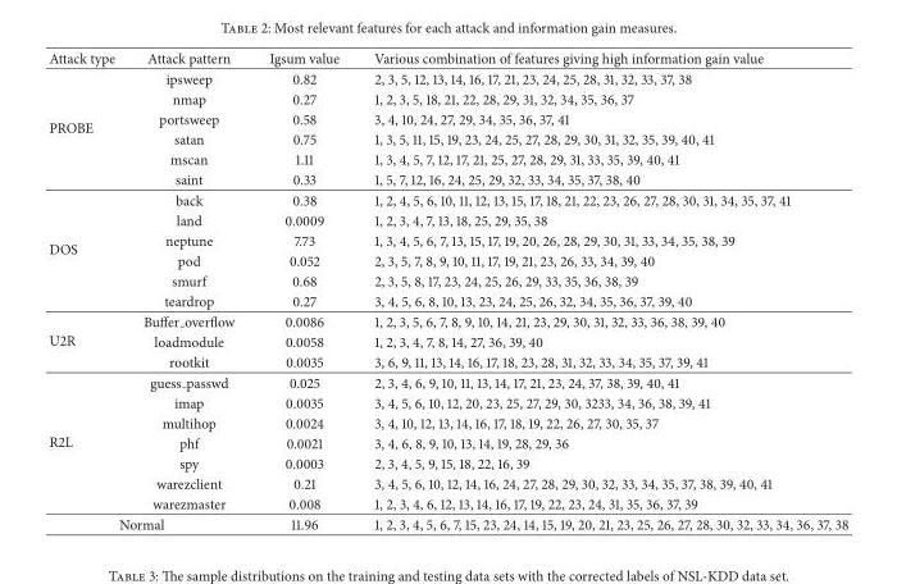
<table><thead><tr><td>Attack type</td><td>Attack pattern</td><td>Igsum value</td><td>Various combination of features giving high information gain value</td></tr></thead><tbody><tr><td rowspan="6">PROBE</td><td>ipsweep</td><td>0.82</td><td>2, 3, 5, 12, 13, 14, 16, 17, 21, 23, 24, 25, 28, 31, 32, 33, 37, 38</td></tr><tr><td>nmap</td><td>0.27</td><td>1, 2, 3, 5, 18, 21, 22, 28, 29, 31, 32, 34, 35, 36, 37</td></tr><tr><td>portsweep</td><td>0.58</td><td>3, 4, 10, 24, 27, 29, 34, 35, 36, 37, 41</td></tr><tr><td>satan</td><td>0.75</td><td>1, 3, 5, 11, 15, 19, 23, 24, 25, 27, 28, 29, 30, 31, 32, 35, 39, 40, 41</td></tr><tr><td>mscan</td><td>1.11</td><td>1, 3, 4, 5, 7, 12, 17, 21, 25, 27, 28, 29, 31, 33, 35, 39, 40, 41</td></tr><tr><td>saint</td><td>0.33</td><td>1, 5, 7, 12, 16, 24, 25, 29, 32, 33, 34, 35, 37, 38, 40</td></tr><tr><td rowspan="6">DOS</td><td>back</td><td>0.38</td><td>1, 2, 4, 5, 6, 10, 11, 12, 13, 15, 17, 18, 21, 22, 23, 26, 27, 28, 30, 31, 34, 35, 37, 41</td></tr><tr><td>land</td><td>0.0009</td><td>1, 2, 3, 4, 7, 13, 18, 25, 29, 35, 38</td></tr><tr><td>neptune</td><td>7.73</td><td>1, 3, 4, 5, 6, 7, 13, 15, 17, 19, 20, 26, 28, 29, 30, 31, 33, 34, 35, 38, 39</td></tr><tr><td>pod</td><td>0.052</td><td>2, 3, 5, 7, 8, 9, 10, 11, 17, 19, 21, 23, 26, 33, 34, 39, 40</td></tr><tr><td>smurf</td><td>0.68</td><td>2, 3, 5, 8, 17, 23, 24, 25, 26, 29, 33, 35, 36, 38, 39</td></tr><tr><td>teardrop</td><td>0.27</td><td>3, 4, 5, 6, 8, 10, 13, 23, 24, 25, 26, 32, 34, 35, 36, 37, 39, 40</td></tr><tr><td rowspan="3">U2R</td><td>Buffer overflow</td><td>0.0086</td><td>1, 2, 3, 5, 6, 7, 8, 9, 10, 14, 21, 23, 29, 30, 31, 32, 33, 36, 38, 39, 40</td></tr><tr><td>loadmodule</td><td>0.0058</td><td>1, 2, 3, 4, 7, 8, 14, 27, 36, 39, 40</td></tr><tr><td>rootkit</td><td>0.0035</td><td>3, 6, 9, 11, 13, 14, 16, 17, 18, 23, 28, 31, 32, 33, 34, 35, 37, 39, 41</td></tr><tr><td rowspan="7">R2L</td><td>guess passwd</td><td>0.025</td><td>2, 3, 4, 6, 9, 10, 11, 13, 14, 17, 21, 23, 24, 37, 38, 39, 40, 41</td></tr><tr><td>imap</td><td>0.0035</td><td>3, 4, 5, 6, 10, 12, 20, 23, 25, 27, 29, 30, 3233, 34, 36, 38, 39, 41</td></tr><tr><td>multihop</td><td>0.0024</td><td>3, 4, 10, 12, 13, 14, 16, 17, 18, 19, 22, 26, 27, 30, 35, 37</td></tr><tr><td>phf</td><td>0.0021</td><td>3, 4, 6, 8, 9, 10, 13, 14, 19, 28, 29, 36</td></tr><tr><td>spy</td><td>0.0003</td><td>2, 3, 4, 5, 9, 15, 18, 22, 16, 39</td></tr><tr><td>warezclient</td><td>0.21</td><td>3, 4, 5, 6, 10, 12, 14, 16, 24, 27, 28, 29, 30, 32, 33, 34, 35, 37, 38, 39, 40, 41</td></tr><tr><td>warezmaster</td><td>0.008</td><td>1, 2, 3, 4, 6, 12, 13, 14, 16, 17, 19, 22, 23, 24, 31, 35, 36, 37, 39</td></tr><tr><td colspan="2">Normal</td><td>11.96</td><td>1, 2, 3, 4, 5, 6, 7, 15, 23, 24, 14, 15, 19, 20, 21, 23, 25, 26, 27, 28, 30, 32, 33, 34, 36, 37, 38</td></tr></tbody></table>